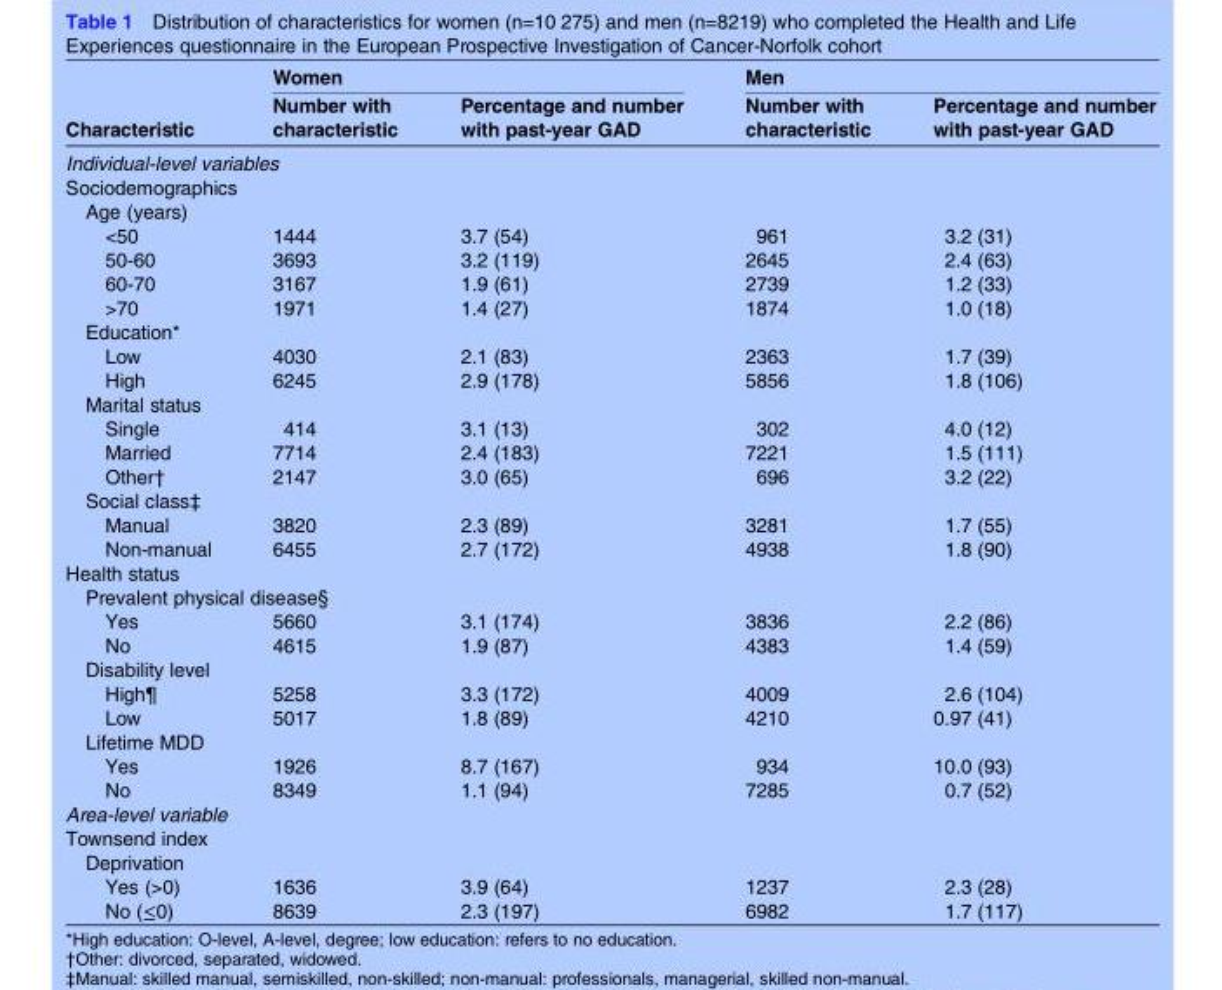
<table><thead><tr><td rowspan="2">Characteristic</td><td colspan="2">Women</td><td colspan="2">Men</td></tr><tr><td>Number with characteristic</td><td>Percentage and number with past-year GAD</td><td>Number with characteristic</td><td>Percentage and number with past-year GAD</td></tr></thead><tbody><tr><td colspan="5">Individual-level variables</td></tr><tr><td colspan="5">Sociodemographics</td></tr><tr><td colspan="5">Age (years)</td></tr><tr><td>&lt;50</td><td>1444</td><td>3.7 (54)</td><td>961</td><td>3.2 (31)</td></tr><tr><td>50-60</td><td>3693</td><td>3.2 (119)</td><td>2645</td><td>2.4 (63)</td></tr><tr><td>60-70</td><td>3167</td><td>1.9 (61)</td><td>2739</td><td>1.2 (33)</td></tr><tr><td>&gt;70</td><td>1971</td><td>1.4 (27)</td><td>1874</td><td>1.0 (18)</td></tr><tr><td colspan="5">Education*</td></tr><tr><td>Low</td><td>4030</td><td>2.1 (83)</td><td>2363</td><td>1.7 (39)</td></tr><tr><td>High</td><td>6245</td><td>2.9 (178)</td><td>5856</td><td>1.8 (106)</td></tr><tr><td colspan="5">Marital status</td></tr><tr><td>Single</td><td>414</td><td>3.1 (13)</td><td>302</td><td>4.0 (12)</td></tr><tr><td>Married</td><td>7714</td><td>2.4 (183)</td><td>7221</td><td>1.5 (111)</td></tr><tr><td>Other†</td><td>2147</td><td>3.0 (65)</td><td>696</td><td>3.2 (22)</td></tr><tr><td colspan="5">Social class‡</td></tr><tr><td>Manual</td><td>3820</td><td>2.3 (89)</td><td>3281</td><td>1.7 (55)</td></tr><tr><td>Non-manual</td><td>6455</td><td>2.7 (172)</td><td>4938</td><td>1.8 (90)</td></tr><tr><td colspan="5">Health status</td></tr><tr><td colspan="5">Prevalent physical disease§</td></tr><tr><td>Yes</td><td>5660</td><td>3.1 (174)</td><td>3836</td><td>2.2 (86)</td></tr><tr><td>No</td><td>4615</td><td>1.9 (87)</td><td>4383</td><td>1.4 (59)</td></tr><tr><td colspan="5">Disability level</td></tr><tr><td>High¶</td><td>5258</td><td>3.3 (172)</td><td>4009</td><td>2.6 (104)</td></tr><tr><td>Low</td><td>5017</td><td>1.8 (89)</td><td>4210</td><td>0.97 (41)</td></tr><tr><td colspan="5">Lifetime MDD</td></tr><tr><td>Yes</td><td>1926</td><td>8.7 (167)</td><td>934</td><td>10.0 (93)</td></tr><tr><td>No</td><td>8349</td><td>1.1 (94)</td><td>7285</td><td>0.7 (52)</td></tr><tr><td colspan="5">Area-level variable</td></tr><tr><td colspan="5">Townsend index</td></tr><tr><td colspan="5">Deprivation</td></tr><tr><td>Yes (&gt;0)</td><td>1636</td><td>3.9 (64)</td><td>1237</td><td>2.3 (28)</td></tr><tr><td>No (≤0)</td><td>8639</td><td>2.3 (197)</td><td>6982</td><td>1.7 (117)</td></tr></tbody></table>